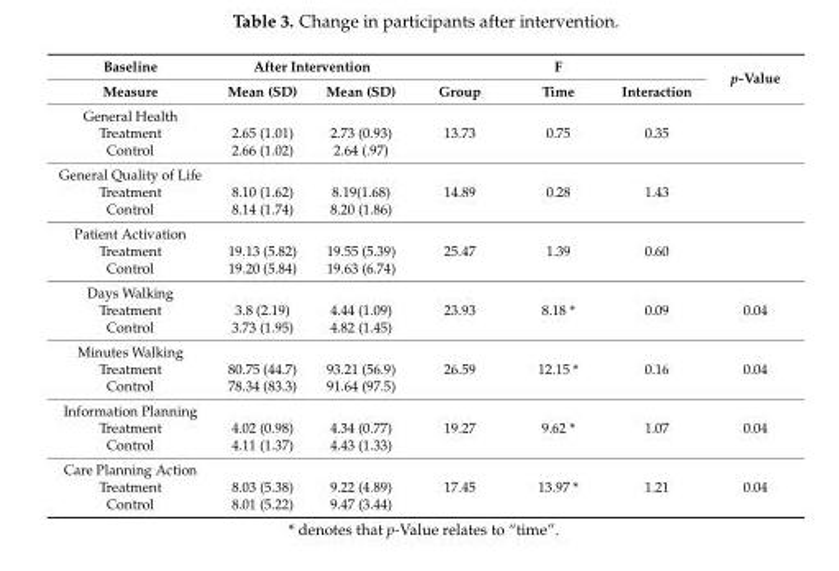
<table><thead><tr><td rowspan="2">Baseline Measure</td><td colspan="2">After Intervention</td><td colspan="3">F</td><td rowspan="2">p-Value</td></tr><tr><td>Mean (SD)</td><td>Mean (SD)</td><td>Group</td><td>Time</td><td>Interaction</td></tr></thead><tbody><tr><td colspan="7">General Health</td></tr><tr><td>Treatment</td><td>2.65 (1.01)</td><td>2.73 (0.93)</td><td>13.73</td><td>0.75</td><td>0.35</td><td></td></tr><tr><td>Control</td><td>2.66 (1.02)</td><td>2.64 (.97)</td><td></td><td></td><td></td><td></td></tr><tr><td colspan="7">General Quality of Life</td></tr><tr><td>Treatment</td><td>8.10 (1.62)</td><td>8.19(1.68)</td><td>14.89</td><td>0.28</td><td>1.43</td><td></td></tr><tr><td>Control</td><td>8.14 (1.74)</td><td>8.20 (1.86)</td><td></td><td></td><td></td><td></td></tr><tr><td colspan="7">Patient Activation</td></tr><tr><td>Treatment</td><td>19.13 (5.82)</td><td>19.55 (5.39)</td><td>25.47</td><td>1.39</td><td>0.60</td><td></td></tr><tr><td>Control</td><td>19.20 (5.84)</td><td>19.63 (6.74)</td><td></td><td></td><td></td><td></td></tr><tr><td colspan="7">Days Walking</td></tr><tr><td>Treatment</td><td>3.8 (2.19)</td><td>4.44 (1.09)</td><td>23.93</td><td>8.18 *</td><td>0.09</td><td>0.04</td></tr><tr><td>Control</td><td>3.73 (1.95)</td><td>4.82 (1.45)</td><td></td><td></td><td></td><td></td></tr><tr><td colspan="7">Minutes Walking</td></tr><tr><td>Treatment</td><td>80.75 (44.7)</td><td>93.21 (56.9)</td><td>26.59</td><td>12.15 *</td><td>0.16</td><td>0.04</td></tr><tr><td>Control</td><td>78.34 (83.3)</td><td>91.64 (97.5)</td><td></td><td></td><td></td><td></td></tr><tr><td colspan="7">Information Planning</td></tr><tr><td>Treatment</td><td>4.02 (0.98)</td><td>4.34 (0.77)</td><td>19.27</td><td>9.62 *</td><td>1.07</td><td>0.04</td></tr><tr><td>Control</td><td>4.11 (1.37)</td><td>4.43 (1.33)</td><td></td><td></td><td></td><td></td></tr><tr><td colspan="7">Care Planning Action</td></tr><tr><td>Treatment</td><td>8.03 (5.38)</td><td>9.22 (4.89)</td><td>17.45</td><td>13.97 *</td><td>1.21</td><td>0.04</td></tr><tr><td>Control</td><td>8.01 (5.22)</td><td>9.47 (3.44)</td><td></td><td></td><td></td><td></td></tr></tbody></table>